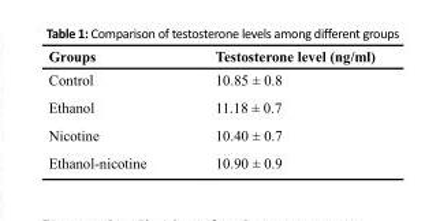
<table><thead><tr><td>Groups</td><td>Testosterone level (ng/ml)</td></tr></thead><tbody><tr><td>Control</td><td>10.85 ± 0.8</td></tr><tr><td>Ethanol</td><td>11.18 ± 0.7</td></tr><tr><td>Nicotine</td><td>10.40 ± 0.7</td></tr><tr><td>Ethanol-nicotine</td><td>10.90 ± 0.9</td></tr></tbody></table>